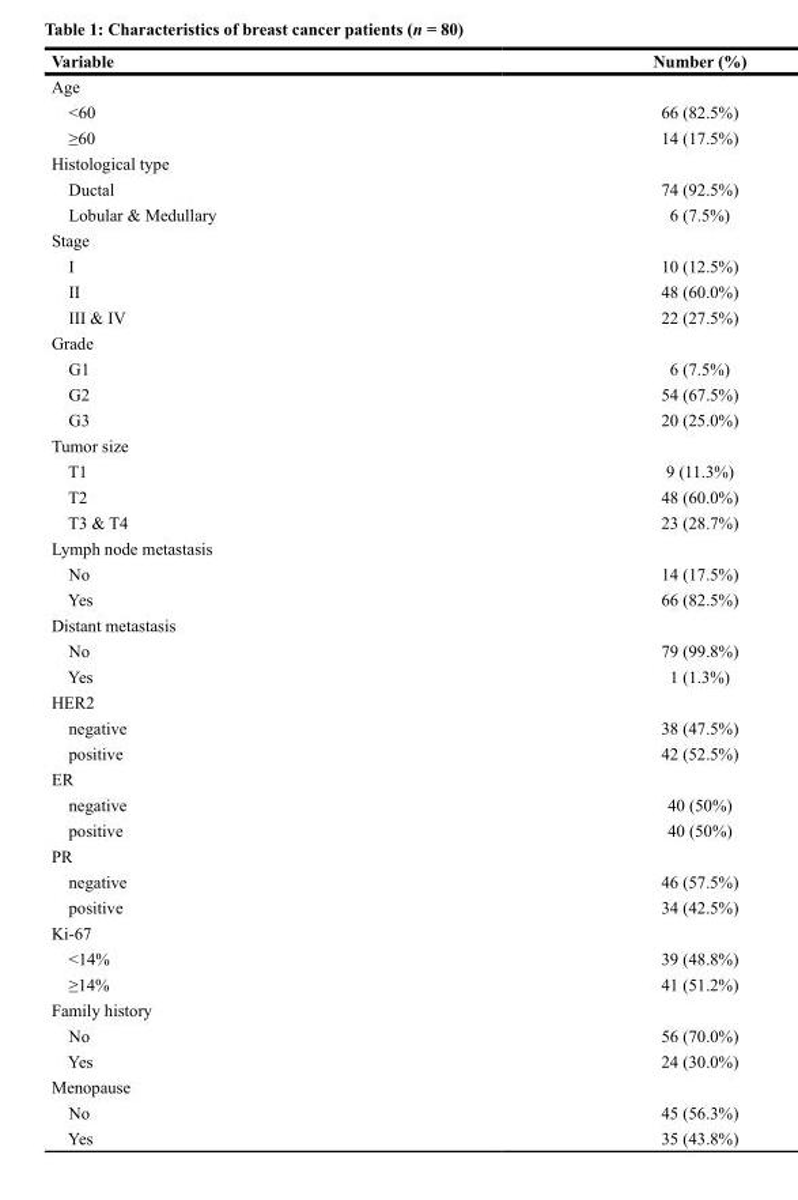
<table><thead><tr><td>Variable</td><td>Number (%)</td></tr></thead><tbody><tr><td colspan="2">Age</td></tr><tr><td>&lt;60</td><td>66 (82.5%)</td></tr><tr><td>≥60</td><td>14 (17.5%)</td></tr><tr><td colspan="2">Histological type</td></tr><tr><td>Ductal</td><td>74 (92.5%)</td></tr><tr><td>Lobular &amp; Medullary</td><td>6 (7.5%)</td></tr><tr><td colspan="2">Stage</td></tr><tr><td>I</td><td>10 (12.5%)</td></tr><tr><td>II</td><td>48 (60.0%)</td></tr><tr><td>III &amp; IV</td><td>22 (27.5%)</td></tr><tr><td colspan="2">Grade</td></tr><tr><td>G1</td><td>6 (7.5%)</td></tr><tr><td>G2</td><td>54 (67.5%)</td></tr><tr><td>G3</td><td>20 (25.0%)</td></tr><tr><td colspan="2">Tumor size</td></tr><tr><td>T1</td><td>9 (11.3%)</td></tr><tr><td>T2</td><td>48 (60.0%)</td></tr><tr><td>T3 &amp; T4</td><td>23 (28.7%)</td></tr><tr><td colspan="2">Lymph node metastasis</td></tr><tr><td>No</td><td>14 (17.5%)</td></tr><tr><td>Yes</td><td>66 (82.5%)</td></tr><tr><td colspan="2">Distant metastasis</td></tr><tr><td>No</td><td>79 (99.8%)</td></tr><tr><td>Yes</td><td>1 (1.3%)</td></tr><tr><td colspan="2">HER2</td></tr><tr><td>negative</td><td>38 (47.5%)</td></tr><tr><td>positive</td><td>42 (52.5%)</td></tr><tr><td colspan="2">ER</td></tr><tr><td>negative</td><td>40 (50%)</td></tr><tr><td>positive</td><td>40 (50%)</td></tr><tr><td colspan="2">PR</td></tr><tr><td>negative</td><td>46 (57.5%)</td></tr><tr><td>positive</td><td>34 (42.5%)</td></tr><tr><td colspan="2">Ki-67</td></tr><tr><td>&lt;14%</td><td>39 (48.8%)</td></tr><tr><td>≥14%</td><td>41 (51.2%)</td></tr><tr><td colspan="2">Family history</td></tr><tr><td>No</td><td>56 (70.0%)</td></tr><tr><td>Yes</td><td>24 (30.0%)</td></tr><tr><td colspan="2">Menopause</td></tr><tr><td>No</td><td>45 (56.3%)</td></tr><tr><td>Yes</td><td>35 (43.8%)</td></tr></tbody></table>